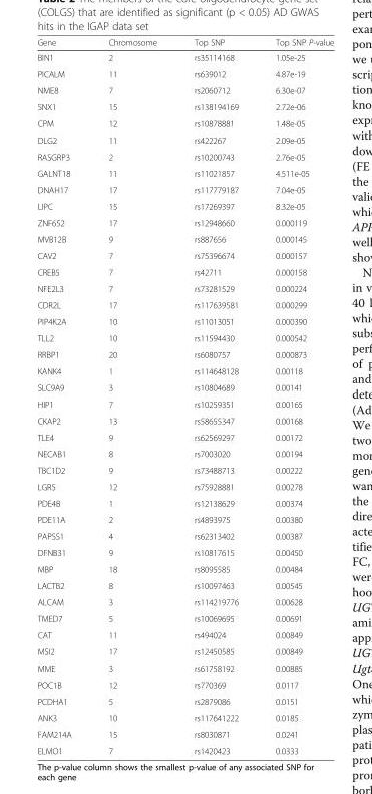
<table><thead><tr><td>Gene</td><td>Chromosome</td><td>Top SNP</td><td>Top SNP P-value</td></tr></thead><tbody><tr><td>BIN1</td><td>2</td><td>rs35114168</td><td>1.05e-25</td></tr><tr><td>PICALM</td><td>11</td><td>rs639012</td><td>4.87e-19</td></tr><tr><td>NME8</td><td>7</td><td>rs2060712</td><td>6.30e-07</td></tr><tr><td>SNX1</td><td>15</td><td>rs138194169</td><td>2.72e-06</td></tr><tr><td>CPM</td><td>12</td><td>rs10878881</td><td>1.48e-05</td></tr><tr><td>DLG2</td><td>11</td><td>rs422267</td><td>2.09e-05</td></tr><tr><td>RASGRP3</td><td>2</td><td>rs10200743</td><td>2.76e-05</td></tr><tr><td>GALNT18</td><td>11</td><td>rs11021857</td><td>4.511e-05</td></tr><tr><td>DNAH17</td><td>17</td><td>rs117779187</td><td>7.04e-05</td></tr><tr><td>LIPC</td><td>15</td><td>rs17269397</td><td>8.32e-05</td></tr><tr><td>ZNF652</td><td>17</td><td>rs12948660</td><td>0.000119</td></tr><tr><td>MVB12B</td><td>9</td><td>rs887656</td><td>0.000145</td></tr><tr><td>CAV2</td><td>7</td><td>rs75396674</td><td>0.000157</td></tr><tr><td>CREB5</td><td>7</td><td>rs42711</td><td>0.000158</td></tr><tr><td>NFE2L3</td><td>7</td><td>rs73281529</td><td>0.000224</td></tr><tr><td>CDR2L</td><td>17</td><td>rs117639581</td><td>0.000299</td></tr><tr><td>PIP4K2A</td><td>10</td><td>rs11013051</td><td>0.000390</td></tr><tr><td>TLL2</td><td>10</td><td>rs11594430</td><td>0.000542</td></tr><tr><td>RRBP1</td><td>20</td><td>rs6080757</td><td>0.000873</td></tr><tr><td>KANK4</td><td>1</td><td>rs114648128</td><td>0.00118</td></tr><tr><td>SLC9A9</td><td>3</td><td>rs10804689</td><td>0.00141</td></tr><tr><td>HIP1</td><td>7</td><td>rs10259351</td><td>0.00165</td></tr><tr><td>CKAP2</td><td>13</td><td>rs58655347</td><td>0.00168</td></tr><tr><td>TLE4</td><td>9</td><td>rs62569297</td><td>0.00172</td></tr><tr><td>NECAB1</td><td>8</td><td>rs7003020</td><td>0.00194</td></tr><tr><td>TBC1D2</td><td>9</td><td>rs73488713</td><td>0.00222</td></tr><tr><td>LGR5</td><td>12</td><td>rs75928881</td><td>0.00278</td></tr><tr><td>PDE4B</td><td>1</td><td>rs12138629</td><td>0.00374</td></tr><tr><td>PDE11A</td><td>2</td><td>rs4893975</td><td>0.00380</td></tr><tr><td>PAPSS1</td><td>4</td><td>rs62313402</td><td>0.00387</td></tr><tr><td>DFNB31</td><td>9</td><td>rs10817615</td><td>0.00450</td></tr><tr><td>MBP</td><td>18</td><td>rs8095585</td><td>0.00484</td></tr><tr><td>LACTB2</td><td>8</td><td>rs10097463</td><td>0.00545</td></tr><tr><td>ALCAM</td><td>3</td><td>rs114219776</td><td>0.00628</td></tr><tr><td>TMED7</td><td>5</td><td>rs10069695</td><td>0.00691</td></tr><tr><td>CAT</td><td>11</td><td>rs494024</td><td>0.00849</td></tr><tr><td>MSI2</td><td>17</td><td>rs12450585</td><td>0.00849</td></tr><tr><td>MME</td><td>3</td><td>rs61758192</td><td>0.00885</td></tr><tr><td>POC1B</td><td>12</td><td>rs770369</td><td>0.0117</td></tr><tr><td>PCDHA1</td><td>5</td><td>rs2879086</td><td>0.0151</td></tr><tr><td>ANK3</td><td>10</td><td>rs117641222</td><td>0.0185</td></tr><tr><td>FAM214A</td><td>15</td><td>rs8030871</td><td>0.0241</td></tr><tr><td>ELMO1</td><td>7</td><td>rs1420423</td><td>0.0333</td></tr></tbody></table>